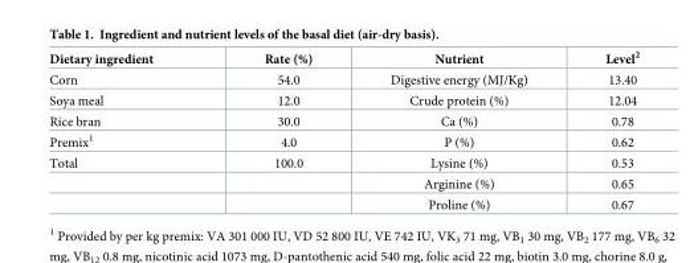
<table><thead><tr><td>Dietary ingredient</td><td>Rate (%)</td><td>Nutrient</td><td>Level<sup>2</sup></td></tr></thead><tbody><tr><td>Corn</td><td>54.0</td><td>Digestive energy (MJ/Kg)</td><td>13.40</td></tr><tr><td>Soya meal</td><td>12.0</td><td>Crude protein (%)</td><td>12.04</td></tr><tr><td>Rice bran</td><td>30.0</td><td>Ca (%)</td><td>0.78</td></tr><tr><td>Premix<sup>1</sup></td><td>4.0</td><td>P (%)</td><td>0.62</td></tr><tr><td rowspan="3">Total</td><td>100.0</td><td>Lysine (%)</td><td>0.53</td></tr><tr><td></td><td>Arginine (%)</td><td>0.65</td></tr><tr><td></td><td>Proline (%)</td><td>0.67</td></tr></tbody></table>